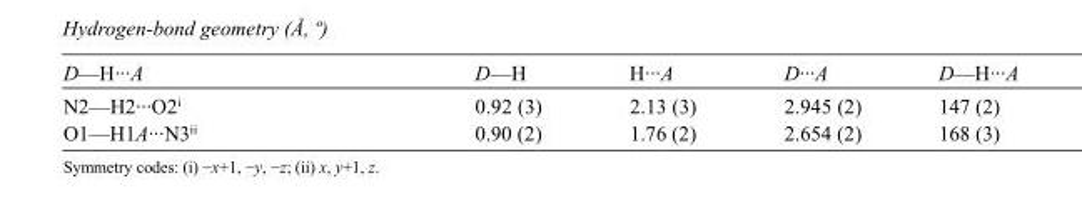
<table><tbody><tr><td>D—H···A</td><td>D—H</td><td>H···A</td><td>D···A</td><td>D—H···A</td></tr><tr><td>N2—H2···O2<sup>i</sup></td><td>0.92 (3)</td><td>2.13 (3)</td><td>2.945 (2)</td><td>147 (2)</td></tr><tr><td>O1—H1A···N3<sup>ii</sup></td><td>0.90 (2)</td><td>1.76 (2)</td><td>2.654 (2)</td><td>168 (3)</td></tr></tbody></table>